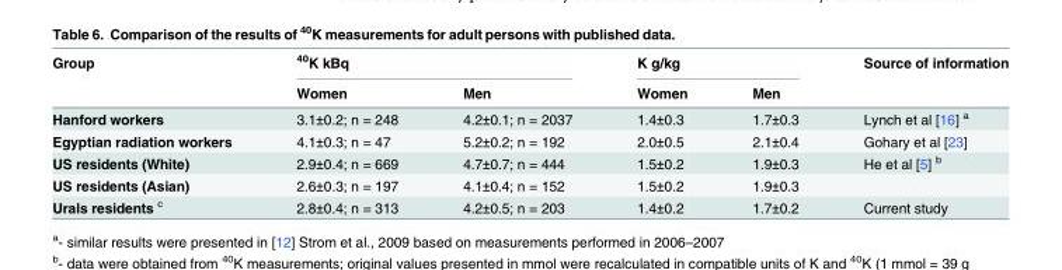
<table><thead><tr><td rowspan="2">Group</td><td colspan="2"><sup>40</sup>K kBq</td><td colspan="2">K g/kg</td><td rowspan="2">Source of information</td></tr><tr><td>Women</td><td>Men</td><td>Women</td><td>Men</td></tr></thead><tbody><tr><td>Hanford workers</td><td>3.1±0.2; n = 248</td><td>4.2±0.1; n = 2037</td><td>1.4±0.3</td><td>1.7±0.3</td><td>Lynch et al [16] <sup>a</sup></td></tr><tr><td>Egyptian radiation workers</td><td>4.1±0.3; n = 47</td><td>5.2±0.2; n = 192</td><td>2.0±0.5</td><td>2.1±0.4</td><td>Gohary et al [23]</td></tr><tr><td>US residents (White)</td><td>2.9±0.4; n = 669</td><td>4.7±0.7; n = 444</td><td>1.5±0.2</td><td>1.9±0.3</td><td>He et al [5] <sup>b</sup></td></tr><tr><td>US residents (Asian)</td><td>2.6±0.3; n = 197</td><td>4.1±0.4; n = 152</td><td>1.5±0.2</td><td>1.9±0.3</td><td></td></tr><tr><td>Urals residents <sup>c</sup></td><td>2.8±0.4; n = 313</td><td>4.2±0.5; n = 203</td><td>1.4±0.2</td><td>1.7±0.2</td><td>Current study</td></tr></tbody></table>